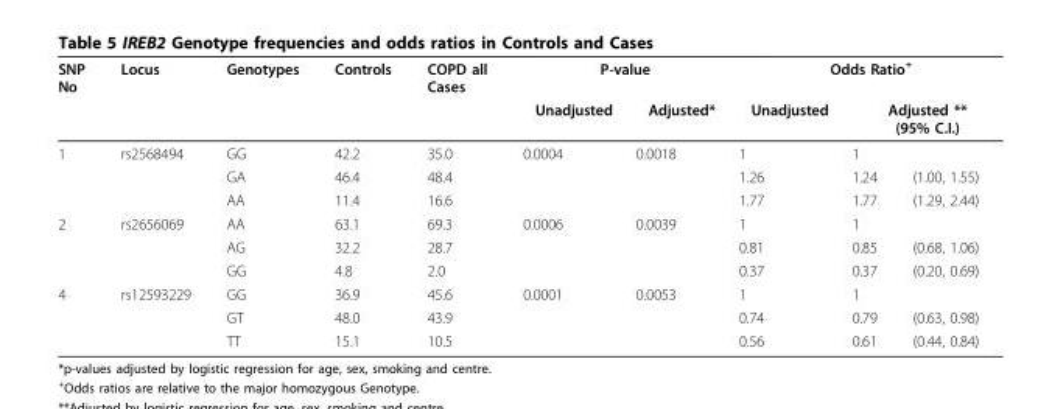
<table><thead><tr><td rowspan="3">SNP No 1</td><td rowspan="3">Locus rs2568494</td><td rowspan="3">Genotypes GG</td><td rowspan="3">Controls 42.2</td><td rowspan="3">COPD all Cases 35.0</td><td colspan="2">P-value</td><td colspan="3">Odds Ratio<sup>+</sup></td></tr><tr><td rowspan="2">Unadjusted 0.0004</td><td rowspan="2">Adjusted* 0.0018</td><td rowspan="2">Unadjusted 1</td><td colspan="2">Adjusted ** (95% C.I.)</td></tr><tr><td>1</td><td></td></tr></thead><tbody><tr><td></td><td></td><td>GA</td><td>46.4</td><td>48.4</td><td></td><td></td><td>1.26</td><td>1.24</td><td>(1.00, 1.55)</td></tr><tr><td></td><td></td><td>AA</td><td>11.4</td><td>16.6</td><td></td><td></td><td>1.77</td><td>1.77</td><td>(1.29, 2.44)</td></tr><tr><td rowspan="3">2</td><td>rs2656069</td><td>AA</td><td>63.1</td><td>69.3</td><td>0.0006</td><td>0.0039</td><td>1</td><td>1</td><td></td></tr><tr><td></td><td>AG</td><td>32.2</td><td>28.7</td><td></td><td></td><td>0.81</td><td>0.85</td><td>(0.68, 1.06)</td></tr><tr><td></td><td>GG</td><td>4.8</td><td>2.0</td><td></td><td></td><td>0.37</td><td>0.37</td><td>(0.20, 0.69)</td></tr><tr><td rowspan="3">4</td><td>rs12593229</td><td>GG</td><td>36.9</td><td>45.6</td><td>0.0001</td><td>0.0053</td><td>1</td><td>1</td><td></td></tr><tr><td></td><td>GT</td><td>48.0</td><td>43.9</td><td></td><td></td><td>0.74</td><td>0.79</td><td>(0.63, 0.98)</td></tr><tr><td></td><td>TT</td><td>15.1</td><td>10.5</td><td></td><td></td><td>0.56</td><td>0.61</td><td>(0.44, 0.84)</td></tr></tbody></table>